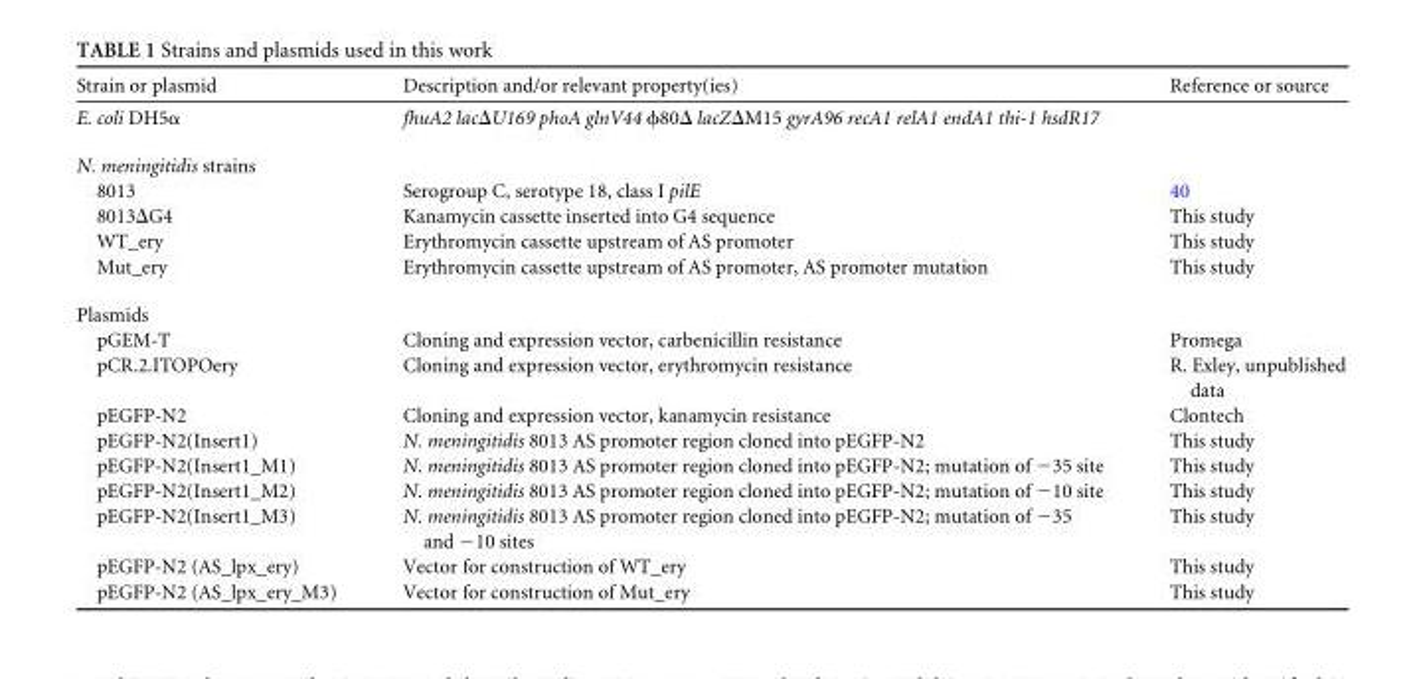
<table><thead><tr><td>Strain or plasmid</td><td>Description and/or relevant property(ies)</td><td>Reference or source</td></tr></thead><tbody><tr><td>E. coli DH5α</td><td>fhuA2 lacΔU169 phoA glnV44 ϕ80Δ lacZΔM15 gyrA96 recA1 relA1 endA1 thi-1 hsdR17</td><td></td></tr><tr><td colspan="3">N. meningitidis strains</td></tr><tr><td>8013</td><td>Serogroup C, serotype 18, class I pilE</td><td>40</td></tr><tr><td>8013ΔG4</td><td>Kanamycin cassette inserted into G4 sequence</td><td>This study</td></tr><tr><td>WT_ery</td><td>Erythromycin cassette upstream of AS promoter</td><td>This study</td></tr><tr><td>Mut_ery</td><td>Erythromycin cassette upstream of AS promoter, AS promoter mutation</td><td>This study</td></tr><tr><td colspan="3">Plasmids</td></tr><tr><td>pGEM-T</td><td>Cloning and expression vector, carbenicillin resistance</td><td>Promega</td></tr><tr><td>pCR.2.ITOPOery</td><td>Cloning and expression vector, erythromycin resistance</td><td>R. Exley, unpublished data</td></tr><tr><td>pEGFP-N2</td><td>Cloning and expression vector, kanamycin resistance</td><td>Clontech</td></tr><tr><td>pEGFP-N2(Insert1)</td><td>N. meningitidis 8013 AS promoter region cloned into pEGFP-N2</td><td>This study</td></tr><tr><td>pEGFP-N2(Insert1_M1)</td><td>N. meningitidis 8013 AS promoter region cloned into pEGFP-N2; mutation of −35 site</td><td>This study</td></tr><tr><td>pEGFP-N2(Insert1_M2)</td><td>N. meningitidis 8013 AS promoter region cloned into pEGFP-N2; mutation of −10 site</td><td>This study</td></tr><tr><td>pEGFP-N2(Insert1_M3)</td><td>N. meningitidis 8013 AS promoter region cloned into pEGFP-N2; mutation of −35 and −10 sites</td><td>This study</td></tr><tr><td>pEGFP-N2 (AS_lpx_ery)</td><td>Vector for construction of WT_ery</td><td>This study</td></tr><tr><td>pEGFP-N2 (AS_lpx_ery_M3)</td><td>Vector for construction of Mut_ery</td><td>This study</td></tr></tbody></table>